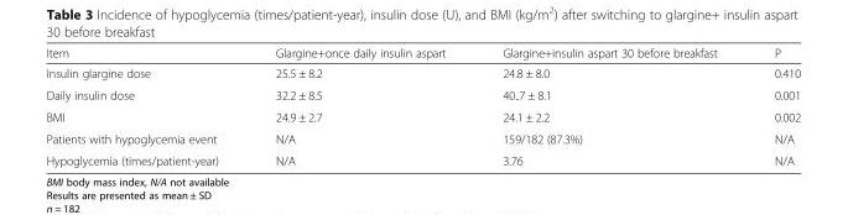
<table><thead><tr><td>Item</td><td>Glargine+once daily insulin aspart</td><td>Glargine+insulin aspart 30 before breakfast</td><td>P</td></tr></thead><tbody><tr><td>Insulin glargine dose</td><td>25.5 ± 8.2</td><td>24.8 ± 8.0</td><td>0.410</td></tr><tr><td>Daily insulin dose</td><td>32.2 ± 8.5</td><td>40..7 ± 8.1</td><td>0.001</td></tr><tr><td>BMI</td><td>24.9 ± 2.7</td><td>24.1 ± 2.2</td><td>0.002</td></tr><tr><td>Patients with hypoglycemia event</td><td>N/A</td><td>159/182 (87.3%)</td><td>N/A</td></tr><tr><td>Hypoglycemia (times/patient-year)</td><td>N/A</td><td>3.76</td><td>N/A</td></tr></tbody></table>